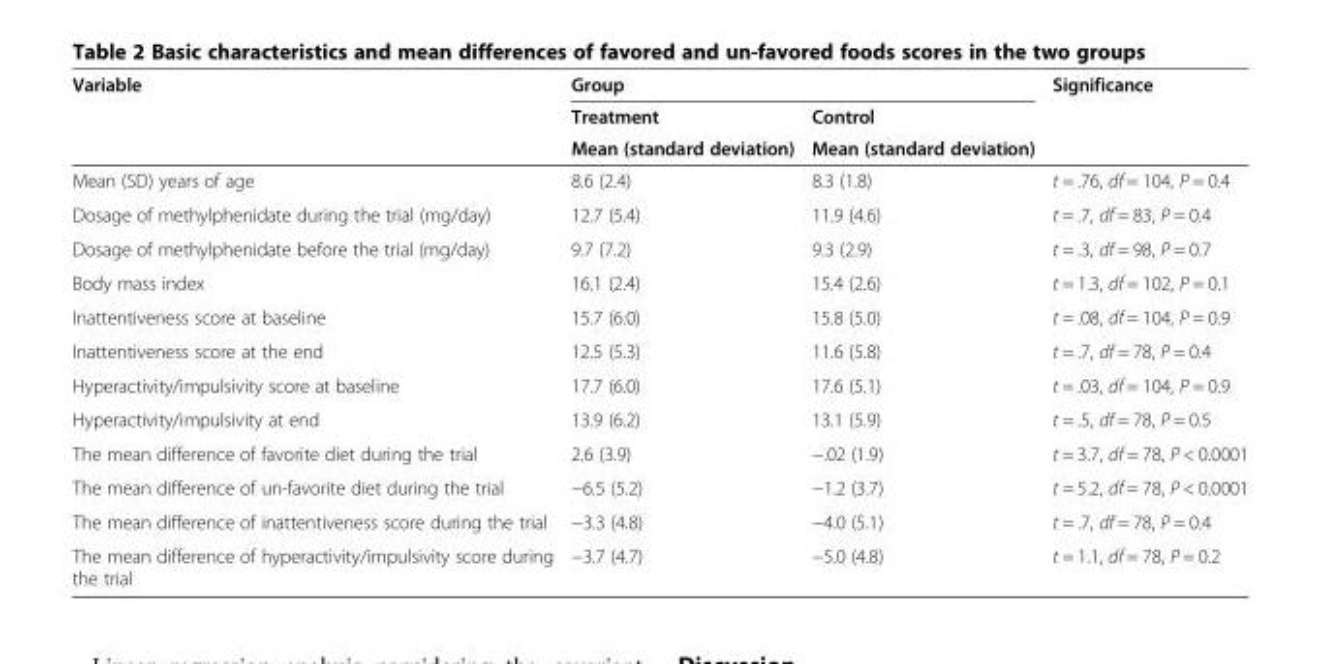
<table><thead><tr><td rowspan="3">Variable</td><td colspan="2">Group</td><td rowspan="3">Significance</td></tr><tr><td rowspan="2">Treatment Mean (standard deviation)</td><td rowspan="2">Control Mean (standard deviation)</td></tr><tr></tr></thead><tbody><tr><td>Mean (SD) years of age</td><td>8.6 (2.4)</td><td>8.3 (1.8)</td><td>t = .76, df = 104, P = 0.4</td></tr><tr><td>Dosage of methylphenidate during the trial (mg/day)</td><td>12.7 (5.4)</td><td>11.9 (4.6)</td><td>t = .7, df = 83, P = 0.4</td></tr><tr><td>Dosage of methylphenidate before the trial (mg/day)</td><td>9.7 (7.2)</td><td>9.3 (2.9)</td><td>t = .3, df = 98, P = 0.7</td></tr><tr><td>Body mass index</td><td>16.1 (2.4)</td><td>15.4 (2.6)</td><td>t = 1.3, df = 102, P = 0.1</td></tr><tr><td>Inattentiveness score at baseline</td><td>15.7 (6.0)</td><td>15.8 (5.0)</td><td>t = .08, df = 104, P = 0.9</td></tr><tr><td>Inattentiveness score at the end</td><td>12.5 (5.3)</td><td>11.6 (5.8)</td><td>t = .7, df = 78, P = 0.4</td></tr><tr><td>Hyperactivity/impulsivity score at baseline</td><td>17.7 (6.0)</td><td>17.6 (5.1)</td><td>t = .03, df = 104, P = 0.9</td></tr><tr><td>Hyperactivity/impulsivity at end</td><td>13.9 (6.2)</td><td>13.1 (5.9)</td><td>t = .5, df = 78, P = 0.5</td></tr><tr><td>The mean difference of favorite diet during the trial</td><td>2.6 (3.9)</td><td>−.02 (1.9)</td><td>t = 3.7, df = 78, P &lt; 0.0001</td></tr><tr><td>The mean difference of un-favorite diet during the trial</td><td>−6.5 (5.2)</td><td>−1.2 (3.7)</td><td>t = 5.2, df = 78, P &lt; 0.0001</td></tr><tr><td>The mean difference of inattentiveness score during the trial</td><td>−3.3 (4.8)</td><td>−4.0 (5.1)</td><td>t = .7, df = 78, P = 0.4</td></tr><tr><td>The mean difference of hyperactivity/impulsivity score during the trial</td><td>−3.7 (4.7)</td><td>−5.0 (4.8)</td><td>t = 1.1, df = 78, P = 0.2</td></tr></tbody></table>